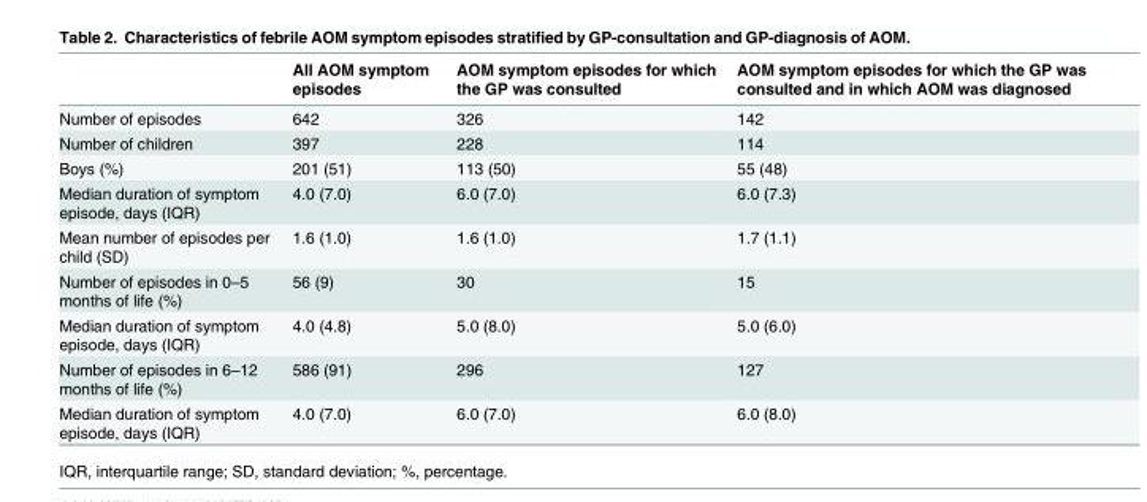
<table><thead><tr><td></td><td>All AOM symptom episodes</td><td>AOM symptom episodes for which the GP was consulted</td><td>AOM symptom episodes for which the GP was consulted and in which AOM was diagnosed</td></tr></thead><tbody><tr><td>Number of episodes</td><td>642</td><td>326</td><td>142</td></tr><tr><td>Number of children</td><td>397</td><td>228</td><td>114</td></tr><tr><td>Boys (%)</td><td>201 (51)</td><td>113 (50)</td><td>55 (48)</td></tr><tr><td>Median duration of symptom episode, days (IQR)</td><td>4.0 (7.0)</td><td>6.0 (7.0)</td><td>6.0 (7.3)</td></tr><tr><td>Mean number of episodes per child (SD)</td><td>1.6 (1.0)</td><td>1.6 (1.0)</td><td>1.7 (1.1)</td></tr><tr><td>Number of episodes in 0–5 months of life (%)</td><td>56 (9)</td><td>30</td><td>15</td></tr><tr><td>Median duration of symptom episode, days (IQR)</td><td>4.0 (4.8)</td><td>5.0 (8.0)</td><td>5.0 (6.0)</td></tr><tr><td>Number of episodes in 6–12 months of life (%)</td><td>586 (91)</td><td>296</td><td>127</td></tr><tr><td>Median duration of symptom episode, days (IQR)</td><td>4.0 (7.0)</td><td>6.0 (7.0)</td><td>6.0 (8.0)</td></tr></tbody></table>